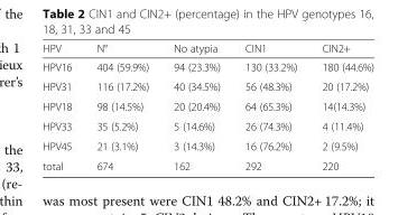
<table><thead><tr><td>HPV</td><td>N°</td><td>No atypia</td><td>CIN1</td><td>CIN2+</td></tr></thead><tbody><tr><td>HPV16</td><td>404 (59.9%)</td><td>94 (23.3%)</td><td>130 (33.2%)</td><td>180 (44.6%)</td></tr><tr><td>HPV31</td><td>116 (17.2%)</td><td>40 (34.5%)</td><td>56 (48.3%)</td><td>20 (17.2%)</td></tr><tr><td>HPV18</td><td>98 (14.5%)</td><td>20 (20.4%)</td><td>64 (65.3%)</td><td>14(14.3%)</td></tr><tr><td>HPV33</td><td>35 (5.2%)</td><td>5 (14.6%)</td><td>26 (74.3%)</td><td>4 (11.4%)</td></tr><tr><td>HPV45</td><td>21 (3.1%)</td><td>3 (14.3%)</td><td>16 (76.2%)</td><td>2 (9.5%)</td></tr><tr><td>total</td><td>674</td><td>162</td><td>292</td><td>220</td></tr></tbody></table>